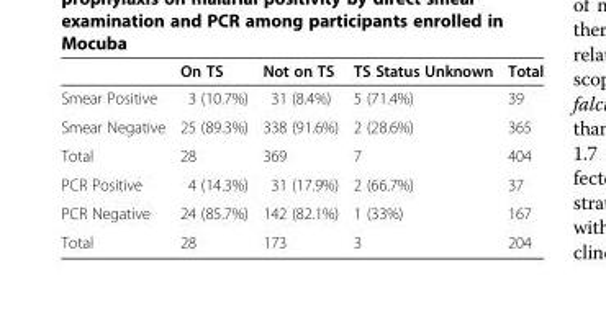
<table><thead><tr><td></td><td>On TS</td><td>Not on TS</td><td>TS Status Unknown</td><td>Total</td></tr></thead><tbody><tr><td>Smear Positive</td><td>3 (10.7%)</td><td>31 (8.4%)</td><td>5 (71.4%)</td><td>39</td></tr><tr><td>Smear Negative</td><td>25 (89.3%)</td><td>338 (91.6%)</td><td>2 (28.6%)</td><td>365</td></tr><tr><td>Total</td><td>28</td><td>369</td><td>7</td><td>404</td></tr><tr><td>PCR Positive</td><td>4 (14.3%)</td><td>31 (17.9%)</td><td>2 (66.7%)</td><td>37</td></tr><tr><td>PCR Negative</td><td>24 (85.7%)</td><td>142 (82.1%)</td><td>1 (33%)</td><td>167</td></tr><tr><td>Total</td><td>28</td><td>173</td><td>3</td><td>204</td></tr></tbody></table>